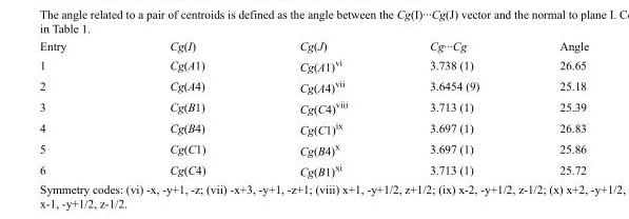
<table><tbody><tr><td>Entry</td><td>Cg(I)</td><td>Cg(J)</td><td>Cg···Cg</td><td>Angle</td></tr><tr><td>1</td><td>Cg(A1)</td><td>Cg(A1)<sup>vi</sup></td><td>3.738 (1)</td><td>26.65</td></tr><tr><td>2</td><td>Cg(A4)</td><td>Cg(A4)<sup>vii</sup></td><td>3.6454 (9)</td><td>25.18</td></tr><tr><td>3</td><td>Cg(B1)</td><td>Cg(C4)<sup>viii</sup></td><td>3.713 (1)</td><td>25.39</td></tr><tr><td>4</td><td>Cg(B4)</td><td>Cg(C1)<sup>ix</sup></td><td>3.697 (1)</td><td>26.83</td></tr><tr><td>5</td><td>Cg(C1)</td><td>Cg(B4)<sup>x</sup></td><td>3.697 (1)</td><td>25.86</td></tr><tr><td>6</td><td>Cg(C4)</td><td>Cg(B1)<sup>xi</sup></td><td>3.713 (1)</td><td>25.72</td></tr></tbody></table>